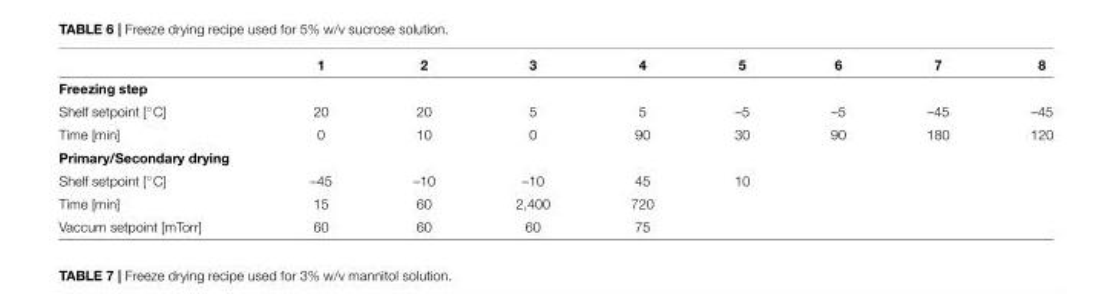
<table><thead><tr><td></td><td>1</td><td>2</td><td>3</td><td>4</td><td>5</td><td>6</td><td>7</td><td>8</td></tr></thead><tbody><tr><td colspan="9">Freezing step</td></tr><tr><td>Shelf setpoint [◦C]</td><td>20</td><td>20</td><td>5</td><td>5</td><td>–5</td><td>–5</td><td>–45</td><td>–45</td></tr><tr><td>Time [min]</td><td>0</td><td>10</td><td>0</td><td>90</td><td>30</td><td>90</td><td>180</td><td>120</td></tr><tr><td colspan="9">Primary/Secondary drying</td></tr><tr><td>Shelf setpoint [◦C]</td><td>–45</td><td>–10</td><td>–10</td><td>45</td><td>10</td><td></td><td></td><td></td></tr><tr><td>Time [min]</td><td>15</td><td>60</td><td>2,400</td><td>720</td><td></td><td></td><td></td><td></td></tr><tr><td>Vaccum setpoint [mTorr]</td><td>60</td><td>60</td><td>60</td><td>75</td><td></td><td></td><td></td><td></td></tr></tbody></table>